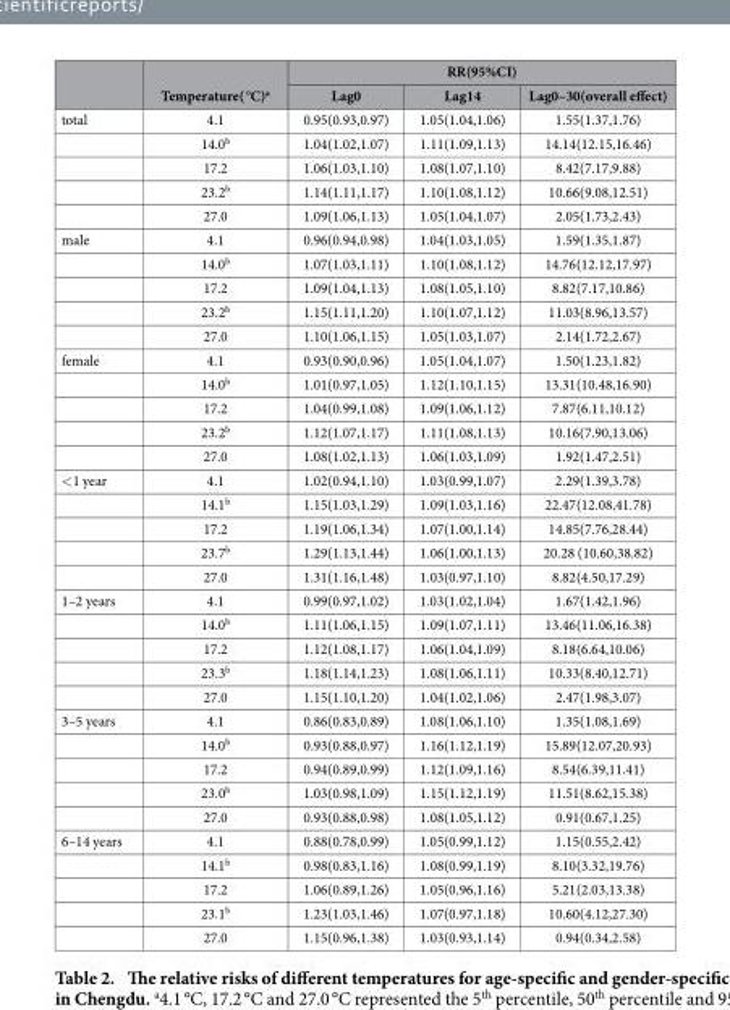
<table><thead><tr><td rowspan="2"></td><td rowspan="2">Temperature( °C)<sup>a</sup></td><td colspan="3">RR(95%CI)</td></tr><tr><td>Lag0</td><td>Lag14</td><td>Lag0–30(overall effect)</td></tr></thead><tbody><tr><td rowspan="5">total</td><td>4.1</td><td>0.95(0.93,0.97)</td><td>1.05(1.04,1.06)</td><td>1.55(1.37,1.76)</td></tr><tr><td>14.0<sup>b</sup></td><td>1.04(1.02,1.07)</td><td>1.11(1.09,1.13)</td><td>14.14(12.15,16.46)</td></tr><tr><td>17.2</td><td>1.06(1.03,1.10)</td><td>1.08(1.07,1.10)</td><td>8.42(7.17,9.88)</td></tr><tr><td>23.2<sup>b</sup></td><td>1.14(1.11,1.17)</td><td>1.10(1.08,1.12)</td><td>10.66(9.08,12.51)</td></tr><tr><td>27.0</td><td>1.09(1.06,1.13)</td><td>1.05(1.04,1.07)</td><td>2.05(1.73,2.43)</td></tr><tr><td rowspan="5">male</td><td>4.1</td><td>0.96(0.94,0.98)</td><td>1.04(1.03,1.05)</td><td>1.59(1.35,1.87)</td></tr><tr><td>14.0<sup>b</sup></td><td>1.07(1.03,1.11)</td><td>1.10(1.08,1.12)</td><td>14.76(12.12,17.97)</td></tr><tr><td>17.2</td><td>1.09(1.04,1.13)</td><td>1.08(1.05,1.10)</td><td>8.82(7.17,10.86)</td></tr><tr><td>23.2<sup>b</sup></td><td>1.15(1.11,1.20)</td><td>1.10(1.07,1.12)</td><td>11.03(8.96,13.57)</td></tr><tr><td>27.0</td><td>1.10(1.06,1.15)</td><td>1.05(1.03,1.07)</td><td>2.14(1.72,2.67)</td></tr><tr><td rowspan="5">female</td><td>4.1</td><td>0.93(0.90,0.96)</td><td>1.05(1.04,1.07)</td><td>1.50(1.23,1.82)</td></tr><tr><td>14.0<sup>b</sup></td><td>1.01(0.97,1.05)</td><td>1.12(1.10,1.15)</td><td>13.31(10.48,16.90)</td></tr><tr><td>17.2</td><td>1.04(0.99,1.08)</td><td>1.09(1.06,1.12)</td><td>7.87(6.11,10.12)</td></tr><tr><td>23.2<sup>b</sup></td><td>1.12(1.07,1.17)</td><td>1.11(1.08,1.13)</td><td>10.16(7.90,13.06)</td></tr><tr><td>27.0</td><td>1.08(1.02,1.13)</td><td>1.06(1.03,1.09)</td><td>1.92(1.47,2.51)</td></tr><tr><td rowspan="5">&lt; 1 year</td><td>4.1</td><td>1.02(0.94,1.10)</td><td>1.03(0.99,1.07)</td><td>2.29(1.39,3.78)</td></tr><tr><td>14.1<sup>b</sup></td><td>1.15(1.03,1.29)</td><td>1.09(1.03,1.16)</td><td>22.47(12.08,41.78)</td></tr><tr><td>17.2</td><td>1.19(1.06,1.34)</td><td>1.07(1.00,1.14)</td><td>14.85(7.76,28.44)</td></tr><tr><td>23.7<sup>b</sup></td><td>1.29(1.13,1.44)</td><td>1.06(1.00,1.13)</td><td>20.28 (10.60,38.82)</td></tr><tr><td>27.0</td><td>1.31(1.16,1.48)</td><td>1.03(0.97,1.10)</td><td>8.82(4.50,17.29)</td></tr><tr><td rowspan="5">1–2 years</td><td>4.1</td><td>0.99(0.97,1.02)</td><td>1.03(1.02,1.04)</td><td>1.67(1.42,1.96)</td></tr><tr><td>14.0<sup>b</sup></td><td>1.11(1.06,1.15)</td><td>1.09(1.07,1.11)</td><td>13.46(11.06,16.38)</td></tr><tr><td>17.2</td><td>1.12(1.08,1.17)</td><td>1.06(1.04,1.09)</td><td>8.18(6.64,10.06)</td></tr><tr><td>23.3<sup>b</sup></td><td>1.18(1.14,1.23)</td><td>1.08(1.06,1.11)</td><td>10.33(8.40,12.71)</td></tr><tr><td>27.0</td><td>1.15(1.10,1.20)</td><td>1.04(1.02,1.06)</td><td>2.47(1.98,3.07)</td></tr><tr><td rowspan="5">3–5 years</td><td>4.1</td><td>0.86(0.83,0.89)</td><td>1.08(1.06,1.10)</td><td>1.35(1.08,1.69)</td></tr><tr><td>14.0<sup>b</sup></td><td>0.93(0.88,0.97)</td><td>1.16(1.12,1.19)</td><td>15.89(12.07,20.93)</td></tr><tr><td>17.2</td><td>0.94(0.89,0.99)</td><td>1.12(1.09,1.16)</td><td>8.54(6.39,11.41)</td></tr><tr><td>23.0<sup>b</sup></td><td>1.03(0.98,1.09)</td><td>1.15(1.12,1.19)</td><td>11.51(8.62,15.38)</td></tr><tr><td>27.0</td><td>0.93(0.88,0.98)</td><td>1.08(1.05,1.12)</td><td>0.91(0.67,1.25)</td></tr><tr><td rowspan="5">6–14 years</td><td>4.1</td><td>0.88(0.78,0.99)</td><td>1.05(0.99,1.12)</td><td>1.15(0.55,2.42)</td></tr><tr><td>14.1<sup>b</sup></td><td>0.98(0.83,1.16)</td><td>1.08(0.99,1.19)</td><td>8.10(3.32,19.76)</td></tr><tr><td>17.2</td><td>1.06(0.89,1.26)</td><td>1.05(0.96,1.16)</td><td>5.21(2.03,13.38)</td></tr><tr><td>23.1<sup>b</sup></td><td>1.23(1.03,1.46)</td><td>1.07(0.97,1.18)</td><td>10.60(4.12,27.30)</td></tr><tr><td>27.0</td><td>1.15(0.96,1.38)</td><td>1.03(0.93,1.14)</td><td>0.94(0.34,2.58)</td></tr></tbody></table>